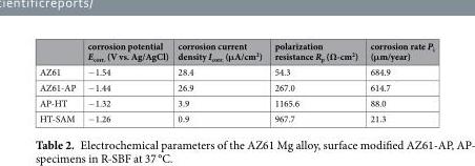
<table><thead><tr><td></td><td>corrosion potential E<sub>corr.</sub> (V vs. Ag/AgCl)</td><td>corrosion current density I<sub>corr.</sub> (μA/cm<sup>2</sup>)</td><td>polarization resistance R<sub>p</sub> (Ω-cm<sup>2</sup>)</td><td>corrosion rate P<sub>i</sub> (μm/year)</td></tr></thead><tbody><tr><td>AZ61</td><td>−1.54</td><td>28.4</td><td>54.3</td><td>684.9</td></tr><tr><td>AZ61-AP</td><td>−1.44</td><td>26.9</td><td>267.0</td><td>614.7</td></tr><tr><td>AP-HT</td><td>−1.32</td><td>3.9</td><td>1165.6</td><td>88.0</td></tr><tr><td>HT-SAM</td><td>−1.26</td><td>0.9</td><td>967.7</td><td>21.3</td></tr></tbody></table>